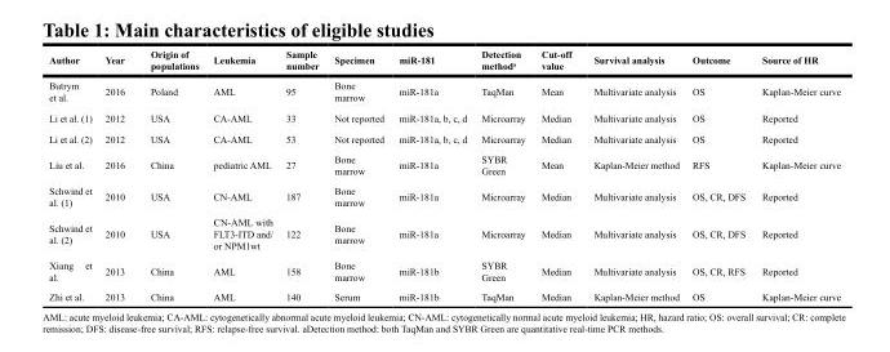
<table><thead><tr><td>Author</td><td>Year</td><td>Origin of populations</td><td>Leukemia</td><td>Sample number</td><td>Specimen</td><td>miR-181</td><td>Detection method<sup>a</sup></td><td>Cut-off value</td><td>Survival analysis</td><td>Outcome</td><td>Source of HR</td></tr></thead><tbody><tr><td>Butrym et al.</td><td>2016</td><td>Poland</td><td>AML</td><td>95</td><td>Bone marrow</td><td>miR-181a</td><td>TaqMan</td><td>Mean</td><td>Multivariate analysis</td><td>OS</td><td>Kaplan-Meier curve</td></tr><tr><td>Li et al. (1)</td><td>2012</td><td>USA</td><td>CA-AML</td><td>33</td><td>Not reported</td><td>miR-181a, b, c, d</td><td>Microarray</td><td>Median</td><td>Multivariate analysis</td><td>OS</td><td>Reported</td></tr><tr><td>Li et al. (2)</td><td>2012</td><td>USA</td><td>CA-AML</td><td>53</td><td>Not reported</td><td>miR-181a, b, c, d</td><td>Microarray</td><td>Median</td><td>Multivariate analysis</td><td>OS</td><td>Reported</td></tr><tr><td>Liu et al.</td><td>2016</td><td>China</td><td>pediatric AML</td><td>27</td><td>Bone marrow</td><td>miR-181a</td><td>SYBR Green</td><td>Mean</td><td>Kaplan-Meier method</td><td>RFS</td><td>Kaplan-Meier curve</td></tr><tr><td>Schwind et al. (1)</td><td>2010</td><td>USA</td><td>CN-AML</td><td>187</td><td>Bone marrow</td><td>miR-181a</td><td>Microarray</td><td>Median</td><td>Multivariate analysis</td><td>OS, CR, DFS</td><td>Reported</td></tr><tr><td>Schwind et al. (2)</td><td>2010</td><td>USA</td><td>CN-AML with FLT3-ITD and/ or NPM1wt</td><td>122</td><td>Bone marrow</td><td>miR-181a</td><td>Microarray</td><td>Median</td><td>Multivariate analysis</td><td>OS, CR, DFS</td><td>Reported</td></tr><tr><td>Xiang et al.</td><td>2013</td><td>China</td><td>AML</td><td>158</td><td>Bone marrow</td><td>miR-181b</td><td>SYBR Green</td><td>Median</td><td>Multivariate analysis</td><td>OS, CR, RFS</td><td>Reported</td></tr><tr><td>Zhi et al.</td><td>2013</td><td>China</td><td>AML</td><td>140</td><td>Serum</td><td>miR-181b</td><td>TaqMan</td><td>Median</td><td>Kaplan-Meier method</td><td>OS</td><td>Kaplan-Meier curve</td></tr></tbody></table>